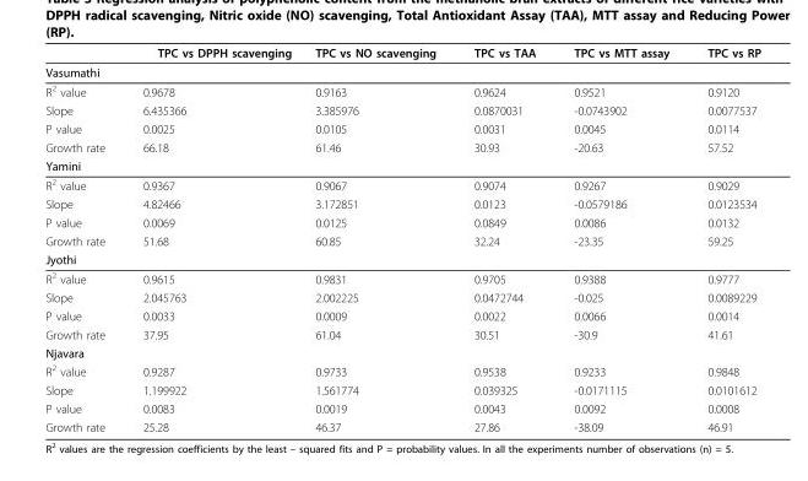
<table><thead><tr><td></td><td>TPC vs DPPH scavenging</td><td>TPC vs NO scavenging</td><td>TPC vs TAA</td><td>TPC vs MTT assay</td><td>TPC vs RP</td></tr></thead><tbody><tr><td colspan="6">Vasumathi</td></tr><tr><td>R<sup>2</sup> value</td><td>0.9678</td><td>0.9163</td><td>0.9624</td><td>0.9521</td><td>0.9120</td></tr><tr><td>Slope</td><td>6.435366</td><td>3.385976</td><td>0.0870031</td><td>-0.0743902</td><td>0.0077537</td></tr><tr><td>P value</td><td>0.0025</td><td>0.0105</td><td>0.0031</td><td>0.0045</td><td>0.0114</td></tr><tr><td>Growth rate</td><td>66.18</td><td>61.46</td><td>30.93</td><td>-20.63</td><td>57.52</td></tr><tr><td colspan="6">Yamini</td></tr><tr><td>R<sup>2</sup> value</td><td>0.9367</td><td>0.9067</td><td>0.9074</td><td>0.9267</td><td>0.9029</td></tr><tr><td>Slope</td><td>4.82466</td><td>3.172851</td><td>0.0123</td><td>-0.0579186</td><td>0.0123534</td></tr><tr><td>P value</td><td>0.0069</td><td>0.0125</td><td>0.0849</td><td>0.0086</td><td>0.0132</td></tr><tr><td>Growth rate</td><td>51.68</td><td>60.85</td><td>32.24</td><td>-23.35</td><td>59.25</td></tr><tr><td colspan="6">Jyothi</td></tr><tr><td>R<sup>2</sup> value</td><td>0.9615</td><td>0.9831</td><td>0.9705</td><td>0.9388</td><td>0.9777</td></tr><tr><td>Slope</td><td>2.045763</td><td>2.002225</td><td>0.0472744</td><td>-0.025</td><td>0.0089229</td></tr><tr><td>P value</td><td>0.0033</td><td>0.0009</td><td>0.0022</td><td>0.0066</td><td>0.0014</td></tr><tr><td>Growth rate</td><td>37.95</td><td>61.04</td><td>30.51</td><td>-30.9</td><td>41.61</td></tr><tr><td colspan="6">Njavara</td></tr><tr><td>R<sup>2</sup> value</td><td>0.9287</td><td>0.9733</td><td>0.9538</td><td>0.9233</td><td>0.9848</td></tr><tr><td>Slope</td><td>1.199922</td><td>1.561774</td><td>0.039325</td><td>-0.0171115</td><td>0.0101612</td></tr><tr><td>P value</td><td>0.0083</td><td>0.0019</td><td>0.0043</td><td>0.0092</td><td>0.0008</td></tr><tr><td>Growth rate</td><td>25.28</td><td>46.37</td><td>27.86</td><td>-38.09</td><td>46.91</td></tr></tbody></table>